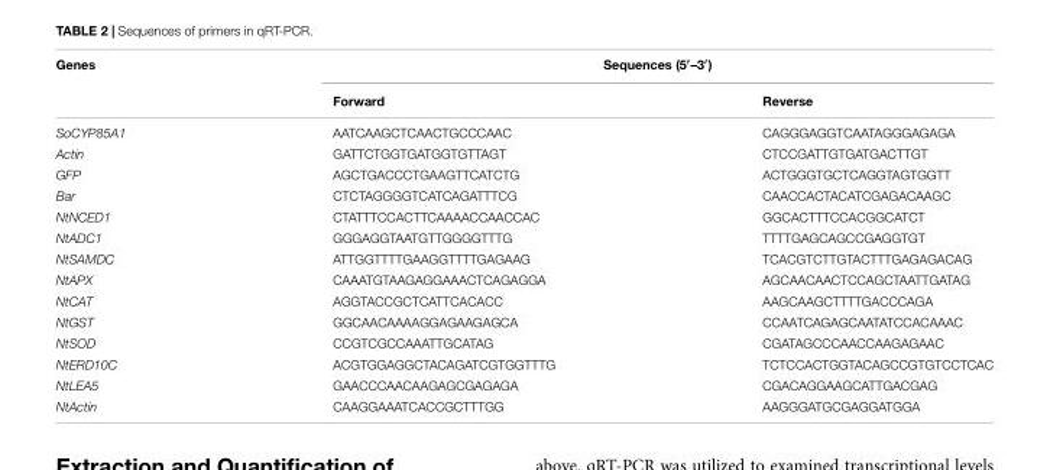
<table><thead><tr><td rowspan="2">Genes</td><td colspan="2">Sequences (5′–3′)</td></tr><tr><td>Forward</td><td>Reverse</td></tr></thead><tbody><tr><td>SoCYP85A1</td><td>AATCAAGCTCAACTGCCCAAC</td><td>CAGGGAGGTCAATAGGGAGAGA</td></tr><tr><td>Actin</td><td>GATTCTGGTGATGGTGTTAGT</td><td>CTCCGATTGTGATGACTTGT</td></tr><tr><td>GFP</td><td>AGCTGACCCTGAAGTTCATCTG</td><td>ACTGGGTGCTCAGGTAGTGGTT</td></tr><tr><td>Bar</td><td>CTCTAGGGGTCATCAGATTTCG</td><td>CAACCACTACATCGAGACAAGC</td></tr><tr><td>NtNCED1</td><td>CTATTTCCACTTCAAAACCAACCAC</td><td>GGCACTTTCCACGGCATCT</td></tr><tr><td>NtADC1</td><td>GGGAGGTAATGTTGGGGTTTG</td><td>TTTTGAGCAGCCGAGGTGT</td></tr><tr><td>NtSAMDC</td><td>ATTGGTTTTGAAGGTTTTGAGAAG</td><td>TCACGTCTTGTACTTTGAGAGACAG</td></tr><tr><td>NtAPX</td><td>CAAATGTAAGAGGAAACTCAGAGGA</td><td>AGCAACAACTCCAGCTAATTGATAG</td></tr><tr><td>NtCAT</td><td>AGGTACCGCTCATTCACACC</td><td>AAGCAAGCTTTTGACCCAGA</td></tr><tr><td>NtGST</td><td>GGCAACAAAAGGAGAAGAGCA</td><td>CCAATCAGAGCAATATCCACAAAC</td></tr><tr><td>NtSOD</td><td>CCGTCGCCAAATTGCATAG</td><td>CGATAGCCCAACCAAGAGAAC</td></tr><tr><td>NtERD10C</td><td>ACGTGGAGGCTACAGATCGTGGTTTG</td><td>TCTCCACTGGTACAGCCGTGTCCTCAC</td></tr><tr><td>NtLEA5</td><td>GAACCCAACAAGAGCGAGAGA</td><td>CGACAGGAAGCATTGACGAG</td></tr><tr><td>NtActin</td><td>CAAGGAAATCACCGCTTTGG</td><td>AAGGGATGCGAGGATGGA</td></tr></tbody></table>